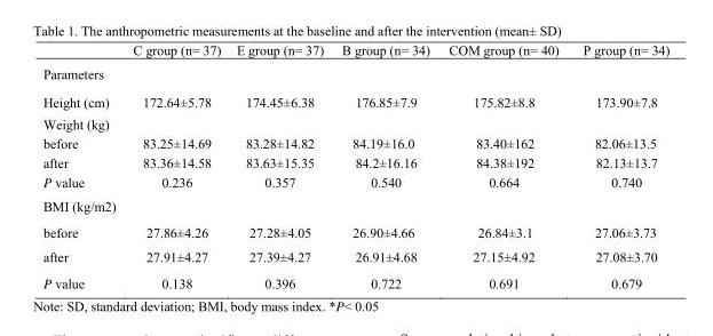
<table><thead><tr><td></td><td>C group (n= 37)</td><td>E group (n= 37)</td><td>B group (n= 34)</td><td>COM group (n= 40)</td><td>P group (n= 34)</td></tr></thead><tbody><tr><td colspan="6">Parameters</td></tr><tr><td>Height (cm)</td><td>172.64±5.78</td><td>174.45±6.38</td><td>176.85±7.9</td><td>175.82±8.8</td><td>173.90±7.8</td></tr><tr><td colspan="6">Weight (kg)</td></tr><tr><td>before</td><td>83.25±14.69</td><td>83.28±14.82</td><td>84.19±16.0</td><td>83.40±162</td><td>82.06±13.5</td></tr><tr><td>after</td><td>83.36±14.58</td><td>83.63±15.35</td><td>84.2±16.16</td><td>84.38±192</td><td>82.13±13.7</td></tr><tr><td>P value</td><td>0.236</td><td>0.357</td><td>0.540</td><td>0.664</td><td>0.740</td></tr><tr><td colspan="6">BMI (kg/m2)</td></tr><tr><td>before</td><td>27.86±4.26</td><td>27.28±4.05</td><td>26.90±4.66</td><td>26.84±3.1</td><td>27.06±3.73</td></tr><tr><td>after</td><td>27.91±4.27</td><td>27.39±4.27</td><td>26.91±4.68</td><td>27.15±4.92</td><td>27.08±3.70</td></tr><tr><td>P value</td><td>0.138</td><td>0.396</td><td>0.722</td><td>0.691</td><td>0.679</td></tr></tbody></table>